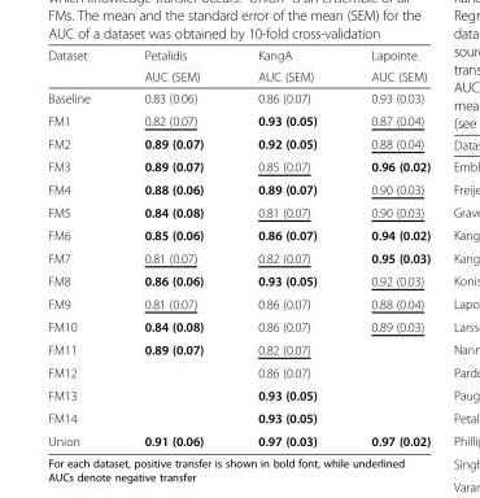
<table><thead><tr><td rowspan="2">Dataset</td><td rowspan="2">Petalidis AUC (SEM)</td><td rowspan="2">KangA AUC (SEM)</td><td rowspan="2">Lapointe AUC (SEM)</td></tr><tr></tr></thead><tbody><tr><td>Baseline</td><td>0.83 (0.06)</td><td>0.86 (0.07)</td><td>0.93 (0.03)</td></tr><tr><td>FM1</td><td>0.82 (0.07)</td><td>0.93 (0.05)</td><td>0.87 (0.04)</td></tr><tr><td>FM2</td><td>0.89 (0.07)</td><td>0.92 (0.05)</td><td>0.88 (0.04)</td></tr><tr><td>FM3</td><td>0.89 (0.07)</td><td>0.85 (0.07)</td><td>0.96 (0.02)</td></tr><tr><td>FM4</td><td>0.88 (0.06)</td><td>0.89 (0.07)</td><td>0.90 (0.03)</td></tr><tr><td>FM5</td><td>0.84 (0.08)</td><td>0.81 (0.07)</td><td>0.90 (0.03)</td></tr><tr><td>FM6</td><td>0.85 (0.06)</td><td>0.86 (0.07)</td><td>0.94 (0.02)</td></tr><tr><td>FM7</td><td>0.81 (0.07)</td><td>0.82 (0.07)</td><td>0.95 (0.03)</td></tr><tr><td>FM8</td><td>0.86 (0.06)</td><td>0.93 (0.05)</td><td>0.92 (0.03)</td></tr><tr><td>FM9</td><td>0.81 (0.07)</td><td>0.86 (0.07)</td><td>0.88 (0.04)</td></tr><tr><td>FM10</td><td>0.84 (0.08)</td><td>0.86 (0.07)</td><td>0.89 (0.03)</td></tr><tr><td>FM11</td><td>0.89 (0.07)</td><td>0.82 (0.07)</td><td></td></tr><tr><td>FM12</td><td></td><td>0.86 (0.07)</td><td></td></tr><tr><td>FM13</td><td></td><td>0.93 (0.05)</td><td></td></tr><tr><td>FM14</td><td></td><td>0.93 (0.05)</td><td></td></tr><tr><td>Union</td><td>0.91 (0.06)</td><td>0.97 (0.03)</td><td>0.97 (0.02)</td></tr></tbody></table>